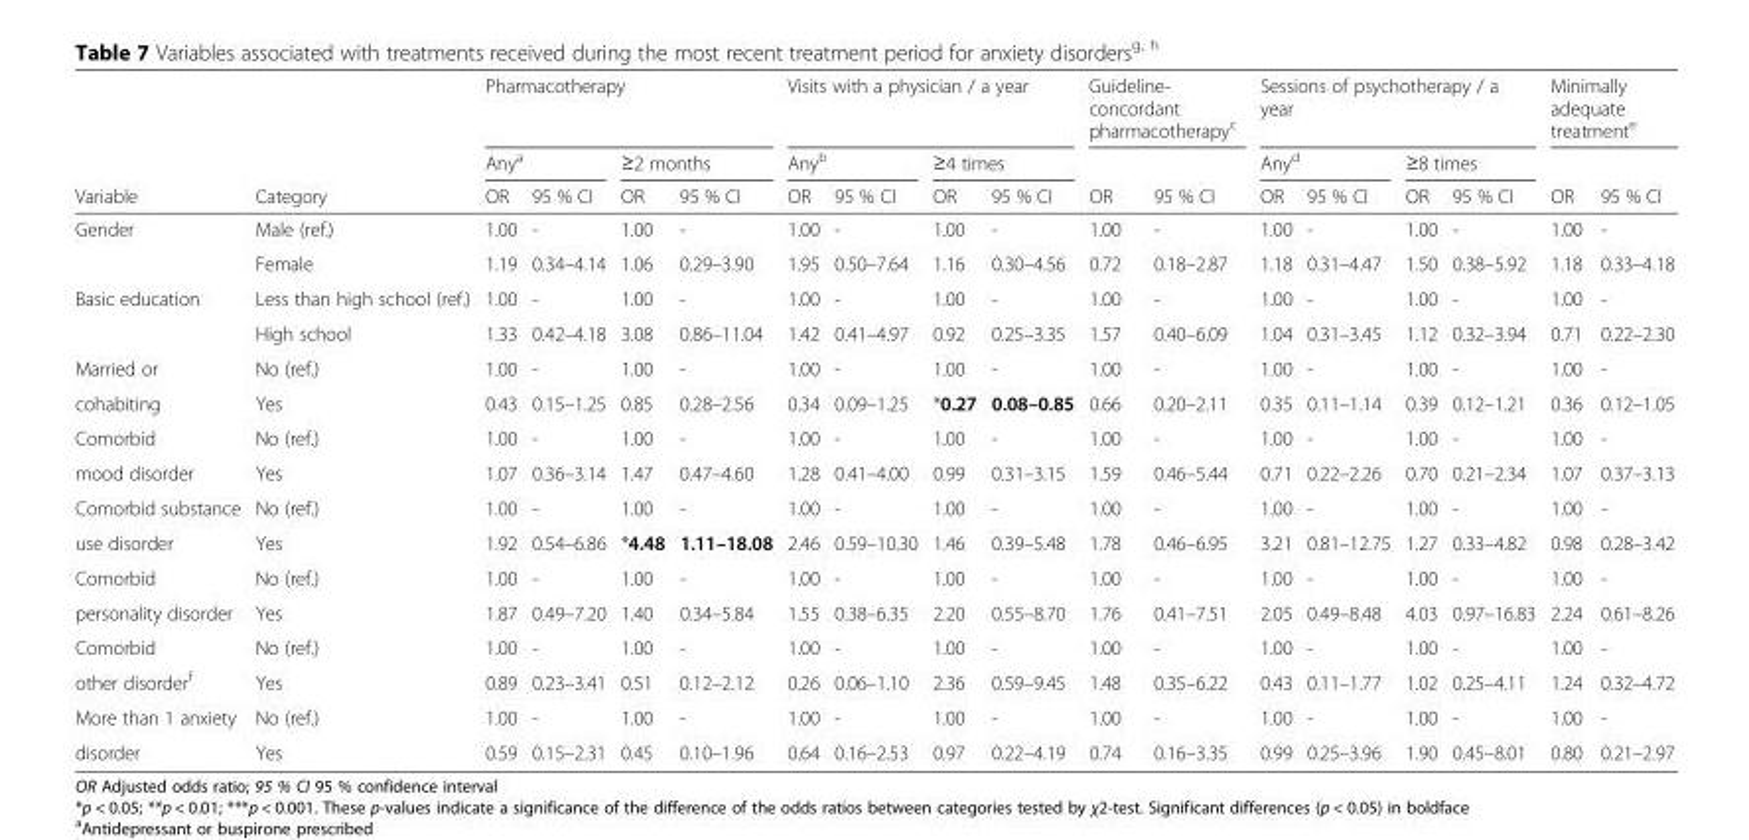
<table><thead><tr><td rowspan="3">Variable</td><td rowspan="3">Category</td><td colspan="4">Pharmacotherapy</td><td colspan="4">Visits with a physician / a year</td><td colspan="2">Guideline- concordant pharmacotherapy<sup>c</sup></td><td colspan="4">Sessions of psychotherapy / a year</td><td colspan="2">Minimally adequate treatment<sup>e</sup></td></tr><tr><td colspan="2">Any<sup>a</sup></td><td colspan="2">≥2 months</td><td colspan="2">Any<sup>b</sup></td><td colspan="2">≥4 times</td><td rowspan="2">OR</td><td rowspan="2">95 % CI</td><td colspan="2">Any<sup>d</sup></td><td colspan="2">≥8 times</td><td rowspan="2">OR</td><td rowspan="2">95 % CI</td></tr><tr><td>OR</td><td>95 % CI</td><td>OR</td><td>95 % CI</td><td>OR</td><td>95 % CI</td><td>OR</td><td>95 % CI</td><td>OR</td><td>95 % CI</td><td>OR</td><td>95 % CI</td></tr></thead><tbody><tr><td rowspan="2">Gender</td><td>Male (ref.)</td><td>1.00</td><td>-</td><td>1.00</td><td>-</td><td>1.00</td><td>-</td><td>1.00</td><td>-</td><td>1.00</td><td>-</td><td>1.00</td><td>-</td><td>1.00</td><td>-</td><td>1.00</td><td>-</td></tr><tr><td>Female</td><td>1.19</td><td>0.34–4.14</td><td>1.06</td><td>0.29–3.90</td><td>1.95</td><td>0.50–7.64</td><td>1.16</td><td>0.30–4.56</td><td>0.72</td><td>0.18–2.87</td><td>1.18</td><td>0.31–4.47</td><td>1.50</td><td>0.38–5.92</td><td>1.18</td><td>0.33–4.18</td></tr><tr><td rowspan="2">Basic education</td><td>Less than high school (ref.)</td><td>1.00</td><td>-</td><td>1.00</td><td>-</td><td>1.00</td><td>-</td><td>1.00</td><td>-</td><td>1.00</td><td>-</td><td>1.00</td><td>-</td><td>1.00</td><td>-</td><td>1.00</td><td>-</td></tr><tr><td>High school</td><td>1.33</td><td>0.42–4.18</td><td>3.08</td><td>0.86–11.04</td><td>1.42</td><td>0.41–4.97</td><td>0.92</td><td>0.25–3.35</td><td>1.57</td><td>0.40–6.09</td><td>1.04</td><td>0.31–3.45</td><td>1.12</td><td>0.32–3.94</td><td>0.71</td><td>0.22–2.30</td></tr><tr><td>Married or</td><td>No (ref.)</td><td>1.00</td><td>-</td><td>1.00</td><td>-</td><td>1.00</td><td>-</td><td>1.00</td><td>-</td><td>1.00</td><td>-</td><td>1.00</td><td>-</td><td>1.00</td><td>-</td><td>1.00</td><td>-</td></tr><tr><td>cohabiting</td><td>Yes</td><td>0.43</td><td>0.15–1.25</td><td>0.85</td><td>0.28–2.56</td><td>0.34</td><td>0.09–1.25</td><td>*0.27</td><td>0.08–0.85</td><td>0.66</td><td>0.20–2.11</td><td>0.35</td><td>0.11–1.14</td><td>0.39</td><td>0.12–1.21</td><td>0.36</td><td>0.12–1.05</td></tr><tr><td>Comorbid</td><td>No (ref.)</td><td>1.00</td><td>-</td><td>1.00</td><td>-</td><td>1.00</td><td>-</td><td>1.00</td><td>-</td><td>1.00</td><td>-</td><td>1.00</td><td>-</td><td>1.00</td><td>-</td><td>1.00</td><td>-</td></tr><tr><td>mood disorder</td><td>Yes</td><td>1.07</td><td>0.36–3.14</td><td>1.47</td><td>0.47–4.60</td><td>1.28</td><td>0.41–4.00</td><td>0.99</td><td>0.31–3.15</td><td>1.59</td><td>0.46–5.44</td><td>0.71</td><td>0.22–2.26</td><td>0.70</td><td>0.21–2.34</td><td>1.07</td><td>0.37–3.13</td></tr><tr><td>Comorbid substance</td><td>No (ref.)</td><td>1.00</td><td>-</td><td>1.00</td><td>-</td><td>1.00</td><td>-</td><td>1.00</td><td>-</td><td>1.00</td><td>-</td><td>1.00</td><td>-</td><td>1.00</td><td>-</td><td>1.00</td><td>-</td></tr><tr><td>use disorder</td><td>Yes</td><td>1.92</td><td>0.54–6.86</td><td>*4.48</td><td>1.11–18.08</td><td>2.46</td><td>0.59–10.30</td><td>1.46</td><td>0.39–5.48</td><td>1.78</td><td>0.46–6.95</td><td>3.21</td><td>0.81–12.75</td><td>1.27</td><td>0.33–4.82</td><td>0.98</td><td>0.28–3.42</td></tr><tr><td>Comorbid</td><td>No (ref.)</td><td>1.00</td><td>-</td><td>1.00</td><td>-</td><td>1.00</td><td>-</td><td>1.00</td><td>-</td><td>1.00</td><td>-</td><td>1.00</td><td>-</td><td>1.00</td><td>-</td><td>1.00</td><td>-</td></tr><tr><td>personality disorder</td><td>Yes</td><td>1.87</td><td>0.49–7.20</td><td>1.40</td><td>0.34–5.84</td><td>1.55</td><td>0.38–6.35</td><td>2.20</td><td>0.55–8.70</td><td>1.76</td><td>0.41–7.51</td><td>2.05</td><td>0.49–8.48</td><td>4.03</td><td>0.97–16.83</td><td>2.24</td><td>0.61–8.26</td></tr><tr><td>Comorbid</td><td>No (ref.)</td><td>1.00</td><td>-</td><td>1.00</td><td>-</td><td>1.00</td><td>-</td><td>1.00</td><td>-</td><td>1.00</td><td>-</td><td>1.00</td><td>-</td><td>1.00</td><td>-</td><td>1.00</td><td>-</td></tr><tr><td>other disorder<sup>f</sup></td><td>Yes</td><td>0.89</td><td>0.23–3.41</td><td>0.51</td><td>0.12–2.12</td><td>0.26</td><td>0.06–1.10</td><td>2.36</td><td>0.59–9.45</td><td>1.48</td><td>0.35–6.22</td><td>0.43</td><td>0.11–1.77</td><td>1.02</td><td>0.25–4.11</td><td>1.24</td><td>0.32–4.72</td></tr><tr><td>More than 1 anxiety</td><td>No (ref.)</td><td>1.00</td><td>-</td><td>1.00</td><td>-</td><td>1.00</td><td>-</td><td>1.00</td><td>-</td><td>1.00</td><td>-</td><td>1.00</td><td>-</td><td>1.00</td><td>-</td><td>1.00</td><td>-</td></tr><tr><td>disorder</td><td>Yes</td><td>0.59</td><td>0.15–2.31</td><td>0.45</td><td>0.10–1.96</td><td>0.64</td><td>0.16–2.53</td><td>0.97</td><td>0.22–4.19</td><td>0.74</td><td>0.16–3.35</td><td>0.99</td><td>0.25–3.96</td><td>1.90</td><td>0.45–8.01</td><td>0.80</td><td>0.21–2.97</td></tr></tbody></table>